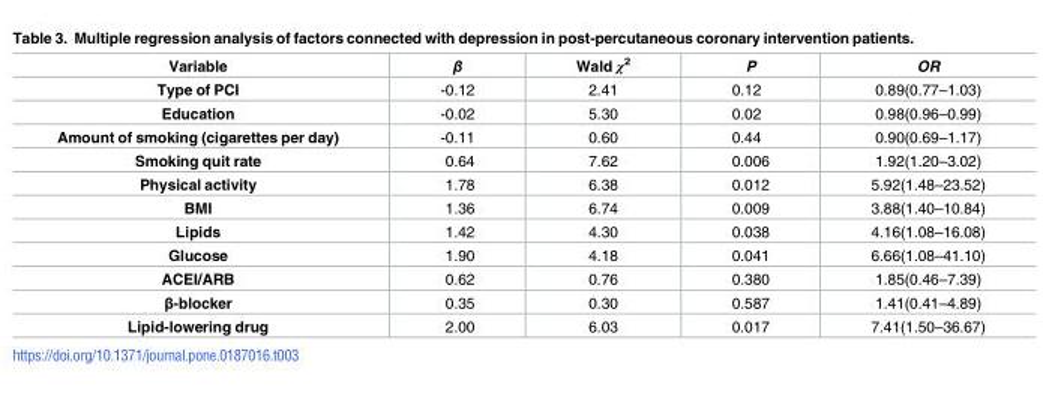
<table><thead><tr><td>Variable</td><td>β</td><td>Wald χ<sup>2</sup></td><td>P</td><td>OR</td></tr></thead><tbody><tr><td>Type of PCI</td><td>-0.12</td><td>2.41</td><td>0.12</td><td>0.89(0.77–1.03)</td></tr><tr><td>Education</td><td>-0.02</td><td>5.30</td><td>0.02</td><td>0.98(0.96–0.99)</td></tr><tr><td>Amount of smoking (cigarettes per day)</td><td>-0.11</td><td>0.60</td><td>0.44</td><td>0.90(0.69–1.17)</td></tr><tr><td>Smoking quit rate</td><td>0.64</td><td>7.62</td><td>0.006</td><td>1.92(1.20–3.02)</td></tr><tr><td>Physical activity</td><td>1.78</td><td>6.38</td><td>0.012</td><td>5.92(1.48–23.52)</td></tr><tr><td>BMI</td><td>1.36</td><td>6.74</td><td>0.009</td><td>3.88(1.40–10.84)</td></tr><tr><td>Lipids</td><td>1.42</td><td>4.30</td><td>0.038</td><td>4.16(1.08–16.08)</td></tr><tr><td>Glucose</td><td>1.90</td><td>4.18</td><td>0.041</td><td>6.66(1.08–41.10)</td></tr><tr><td>ACEI/ARB</td><td>0.62</td><td>0.76</td><td>0.380</td><td>1.85(0.46–7.39)</td></tr><tr><td>β-blocker</td><td>0.35</td><td>0.30</td><td>0.587</td><td>1.41(0.41–4.89)</td></tr><tr><td>Lipid-lowering drug</td><td>2.00</td><td>6.03</td><td>0.017</td><td>7.41(1.50–36.67)</td></tr></tbody></table>